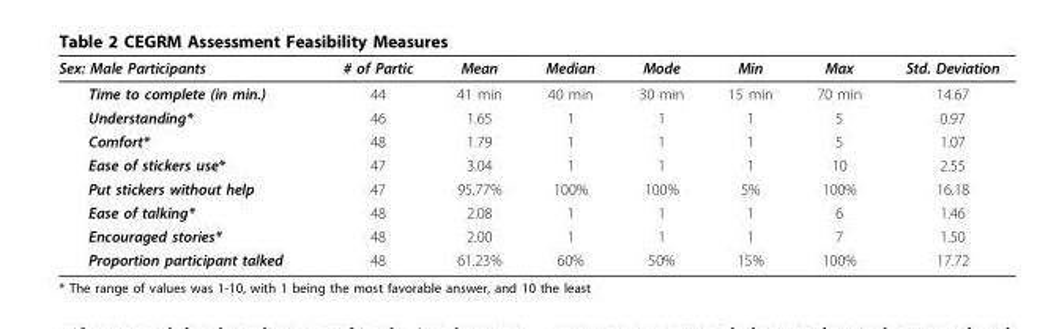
<table><thead><tr><td>Sex: Male Participants</td><td># of Partic</td><td>Mean</td><td>Median</td><td>Mode</td><td>Min</td><td>Max</td><td>Std. Deviation</td></tr></thead><tbody><tr><td>Time to complete (in min.)</td><td>44</td><td>41 min</td><td>40 min</td><td>30 min</td><td>15 min</td><td>70 min</td><td>14.67</td></tr><tr><td>Understanding*</td><td>46</td><td>1.65</td><td>1</td><td>1</td><td>1</td><td>5</td><td>0.97</td></tr><tr><td>Comfort*</td><td>48</td><td>1.79</td><td>1</td><td>1</td><td>1</td><td>5</td><td>1.07</td></tr><tr><td>Ease of stickers use*</td><td>47</td><td>3.04</td><td>1</td><td>1</td><td>1</td><td>10</td><td>2.55</td></tr><tr><td>Put stickers without help</td><td>47</td><td>95.77%</td><td>100%</td><td>100%</td><td>5%</td><td>100%</td><td>16.18</td></tr><tr><td>Ease of talking*</td><td>48</td><td>2.08</td><td>1</td><td>1</td><td>1</td><td>6</td><td>1.46</td></tr><tr><td>Encouraged stories*</td><td>48</td><td>2.00</td><td>1</td><td>1</td><td>1</td><td>7</td><td>1.50</td></tr><tr><td>Proportion participant talked</td><td>48</td><td>61.23%</td><td>60%</td><td>50%</td><td>15%</td><td>100%</td><td>17.72</td></tr></tbody></table>